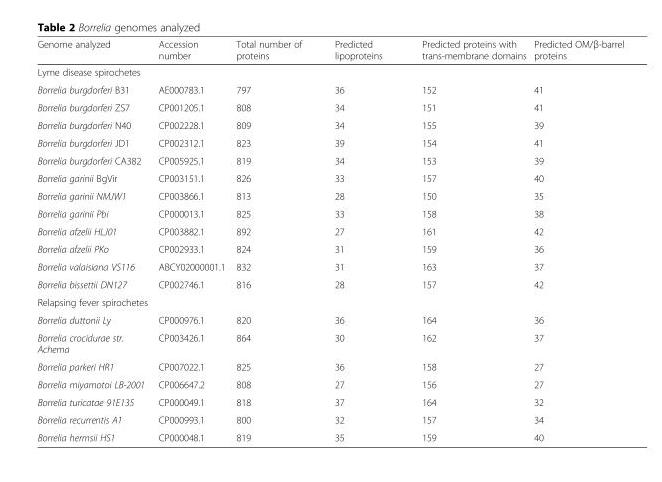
<table><thead><tr><td>Genome analyzed</td><td>Accession number</td><td>Total number of proteins</td><td>Predicted lipoproteins</td><td>Predicted proteins with trans-membrane domains</td><td>Predicted OM/β-barrel proteins</td></tr></thead><tbody><tr><td colspan="6">Lyme disease spirochetes</td></tr><tr><td>Borrelia burgdorferi B31</td><td>AE000783.1</td><td>797</td><td>36</td><td>152</td><td>41</td></tr><tr><td>Borrelia burgdorferi ZS7</td><td>CP001205.1</td><td>808</td><td>34</td><td>151</td><td>41</td></tr><tr><td>Borrelia burgdorferi N40</td><td>CP002228.1</td><td>809</td><td>34</td><td>155</td><td>39</td></tr><tr><td>Borrelia burgdorferi JD1</td><td>CP002312.1</td><td>823</td><td>39</td><td>154</td><td>41</td></tr><tr><td>Borrelia burgdorferi CA382</td><td>CP005925.1</td><td>819</td><td>34</td><td>153</td><td>39</td></tr><tr><td>Borrelia garinii BgVir</td><td>CP003151.1</td><td>826</td><td>33</td><td>157</td><td>40</td></tr><tr><td>Borrelia garinii NMJW1</td><td>CP003866.1</td><td>813</td><td>28</td><td>150</td><td>35</td></tr><tr><td>Borrelia garinii Pbi</td><td>CP000013.1</td><td>825</td><td>33</td><td>158</td><td>38</td></tr><tr><td>Borrelia afzelii HLJ01</td><td>CP003882.1</td><td>892</td><td>27</td><td>161</td><td>42</td></tr><tr><td>Borrelia afzelii PKo</td><td>CP002933.1</td><td>824</td><td>31</td><td>159</td><td>36</td></tr><tr><td>Borrelia valaisiana VS116</td><td>ABCY02000001.1</td><td>832</td><td>31</td><td>163</td><td>37</td></tr><tr><td>Borrelia bissettii DN127</td><td>CP002746.1</td><td>816</td><td>28</td><td>157</td><td>42</td></tr><tr><td colspan="6">Relapsing fever spirochetes</td></tr><tr><td>Borrelia duttonii Ly</td><td>CP000976.1</td><td>820</td><td>36</td><td>164</td><td>36</td></tr><tr><td>Borrelia crocidurae str. Achema</td><td>CP003426.1</td><td>864</td><td>30</td><td>162</td><td>37</td></tr><tr><td>Borrelia parkeri HR1</td><td>CP007022.1</td><td>825</td><td>36</td><td>158</td><td>27</td></tr><tr><td>Borrelia miyamotoi LB-2001</td><td>CP006647.2</td><td>808</td><td>27</td><td>156</td><td>27</td></tr><tr><td>Borrelia turicatae 91E135</td><td>CP000049.1</td><td>818</td><td>37</td><td>164</td><td>32</td></tr><tr><td>Borrelia recurrentis A1</td><td>CP000993.1</td><td>800</td><td>32</td><td>157</td><td>34</td></tr><tr><td>Borrelia hermsii HS1</td><td>CP000048.1</td><td>819</td><td>35</td><td>159</td><td>40</td></tr></tbody></table>